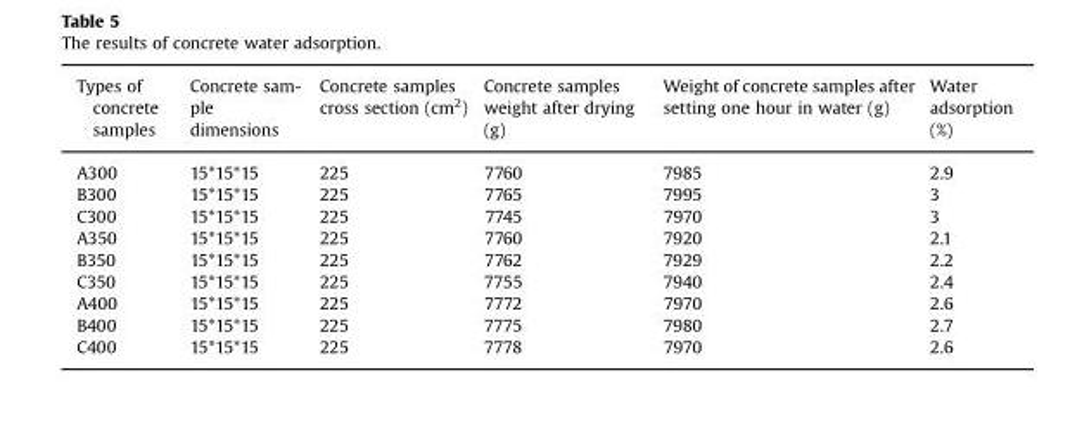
<table><tbody><tr><td>Types of concrete samples</td><td>Concrete sam- ple dimensions</td><td>Concrete samples cross section (cm<sup>2</sup>)</td><td>Concrete samples weight after drying (g)</td><td>Weight of concrete samples after setting one hour in water (g)</td><td>Water adsorption (%)</td></tr><tr><td>A300</td><td>15*15*15</td><td>225</td><td>7760</td><td>7985</td><td>2.9</td></tr><tr><td>B300</td><td>15*15*15</td><td>225</td><td>7765</td><td>7995</td><td>3</td></tr><tr><td>C300</td><td>15*15*15</td><td>225</td><td>7745</td><td>7970</td><td>3</td></tr><tr><td>A350</td><td>15*15*15</td><td>225</td><td>7760</td><td>7920</td><td>2.1</td></tr><tr><td>B350</td><td>15*15*15</td><td>225</td><td>7762</td><td>7929</td><td>2.2</td></tr><tr><td>C350</td><td>15*15*15</td><td>225</td><td>7755</td><td>7940</td><td>2.4</td></tr><tr><td>A400</td><td>15*15*15</td><td>225</td><td>7772</td><td>7970</td><td>2.6</td></tr><tr><td>B400</td><td>15*15*15</td><td>225</td><td>7775</td><td>7980</td><td>2.7</td></tr><tr><td>C400</td><td>15*15*15</td><td>225</td><td>7778</td><td>7970</td><td>2.6</td></tr></tbody></table>